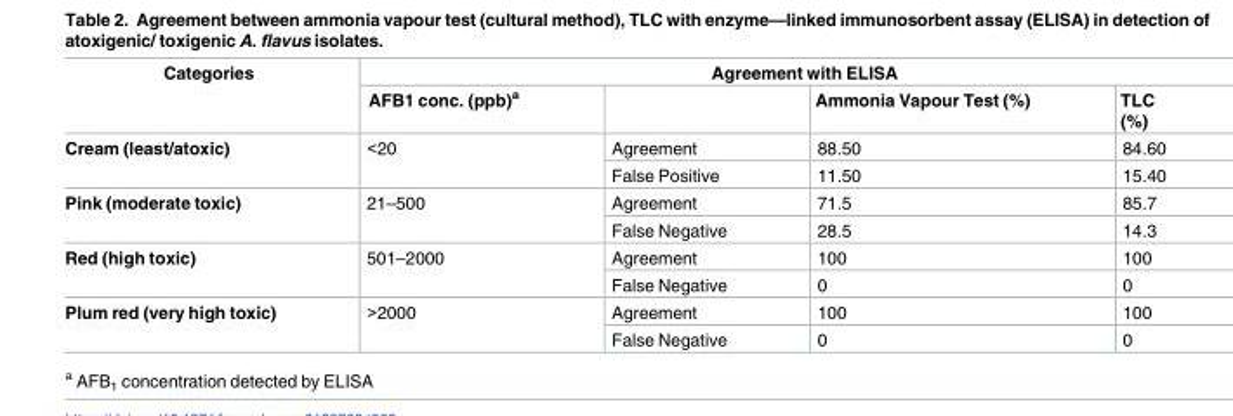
<table><thead><tr><td rowspan="2">Categories</td><td colspan="4">Agreement with ELISA</td></tr><tr><td>AFB1 conc. (ppb)<sup>a</sup></td><td></td><td>Ammonia Vapour Test (%)</td><td>TLC (%)</td></tr></thead><tbody><tr><td rowspan="2">Cream (least/atoxic)</td><td rowspan="2">&lt;20</td><td>Agreement</td><td>88.50</td><td>84.60</td></tr><tr><td>False Positive</td><td>11.50</td><td>15.40</td></tr><tr><td rowspan="2">Pink (moderate toxic)</td><td rowspan="2">21–500</td><td>Agreement</td><td>71.5</td><td>85.7</td></tr><tr><td>False Negative</td><td>28.5</td><td>14.3</td></tr><tr><td rowspan="2">Red (high toxic)</td><td rowspan="2">501–2000</td><td>Agreement</td><td>100</td><td>100</td></tr><tr><td>False Negative</td><td>0</td><td>0</td></tr><tr><td rowspan="2">Plum red (very high toxic)</td><td rowspan="2">&gt;2000</td><td>Agreement</td><td>100</td><td>100</td></tr><tr><td>False Negative</td><td>0</td><td>0</td></tr></tbody></table>